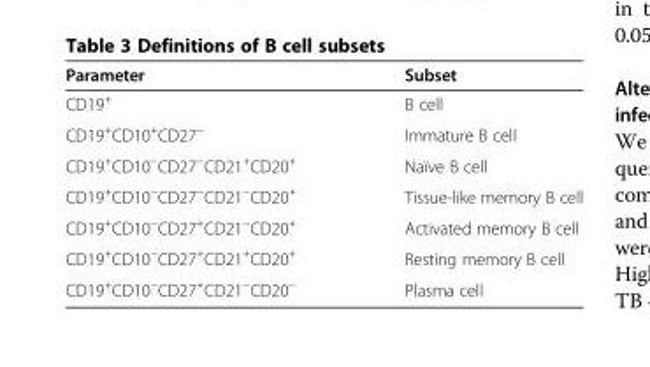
<table><thead><tr><td>Parameter</td><td>Subset</td></tr></thead><tbody><tr><td>CD19<sup>+</sup></td><td>B cell</td></tr><tr><td>CD19<sup>+</sup>CD10<sup>+</sup>CD27<sup>−</sup></td><td>Immature B cell</td></tr><tr><td>CD19<sup>+</sup>CD10<sup>−</sup>CD27<sup>−</sup>CD21<sup>+</sup>CD20<sup>+</sup></td><td>Naïve B cell</td></tr><tr><td>CD19<sup>+</sup>CD10<sup>−</sup>CD27<sup>−</sup>CD21<sup>−</sup>CD20<sup>+</sup></td><td>Tissue-like memory B cell</td></tr><tr><td>CD19<sup>+</sup>CD10<sup>−</sup>CD27<sup>+</sup>CD21<sup>−</sup>CD20<sup>+</sup></td><td>Activated memory B cell</td></tr><tr><td>CD19<sup>+</sup>CD10<sup>−</sup>CD27<sup>+</sup>CD21<sup>+</sup>CD20<sup>+</sup></td><td>Resting memory B cell</td></tr><tr><td>CD19<sup>+</sup>CD10<sup>−</sup>CD27<sup>+</sup>CD21<sup>−</sup>CD20<sup>−</sup></td><td>Plasma cell</td></tr></tbody></table>